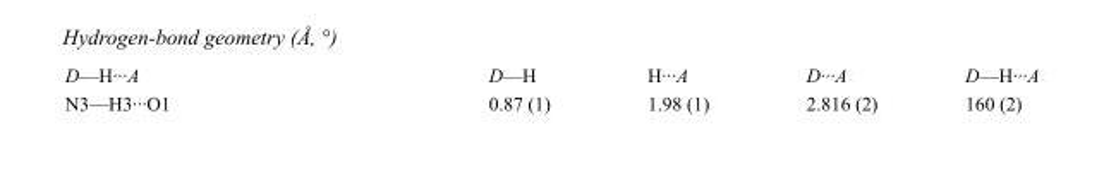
<table><tbody><tr><td>D—H···A</td><td>D—H</td><td>H···A</td><td>D···A</td><td>D—H···A</td></tr><tr><td>N3—H3···O1</td><td>0.87 (1)</td><td>1.98 (1)</td><td>2.816 (2)</td><td>160 (2)</td></tr></tbody></table>